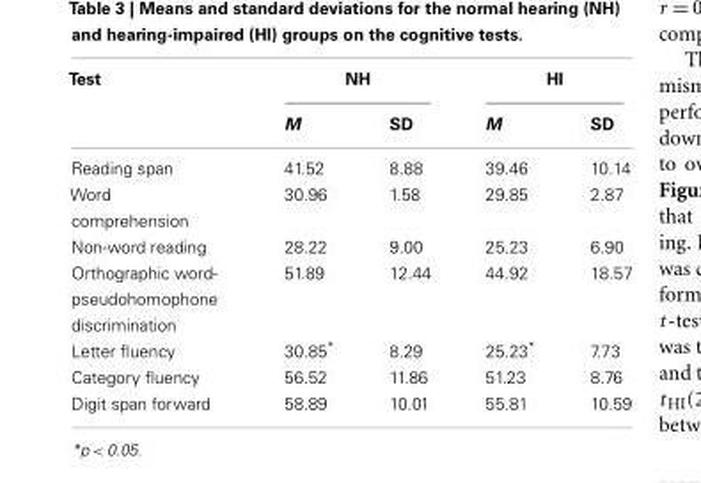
<table><thead><tr><td rowspan="2">Test</td><td colspan="2">NH</td><td colspan="2">HI</td></tr><tr><td>M</td><td>SD</td><td>M</td><td>SD</td></tr></thead><tbody><tr><td>Reading span</td><td>41.52</td><td>8.88</td><td>39.46</td><td>10.14</td></tr><tr><td>Word comprehension</td><td>30.96</td><td>1.58</td><td>29.85</td><td>2.87</td></tr><tr><td>Non-word reading</td><td>28.22</td><td>9.00</td><td>25.23</td><td>6.90</td></tr><tr><td>Orthographic word- pseudohomophone discrimination</td><td>51.89</td><td>12.44</td><td>44.92</td><td>18.57</td></tr><tr><td>Letter fluency</td><td>30.85*</td><td>8.29</td><td>25.23*</td><td>7.73</td></tr><tr><td>Category fluency</td><td>56.52</td><td>11.86</td><td>51.23</td><td>8.76</td></tr><tr><td>Digit span forward</td><td>58.89</td><td>10.01</td><td>55.81</td><td>10.59</td></tr></tbody></table>